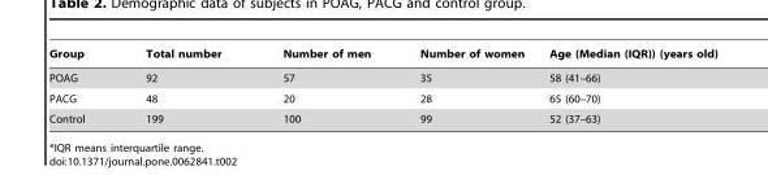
<table><thead><tr><td>Group</td><td>Total number</td><td>Number of men</td><td>Number of women</td><td>Age (Median (IQR)) (years old)</td></tr></thead><tbody><tr><td>POAG</td><td>92</td><td>57</td><td>35</td><td>58 (41–66)</td></tr><tr><td>PACG</td><td>48</td><td>20</td><td>28</td><td>65 (60–70)</td></tr><tr><td>Control</td><td>199</td><td>100</td><td>99</td><td>52 (37–63)</td></tr></tbody></table>